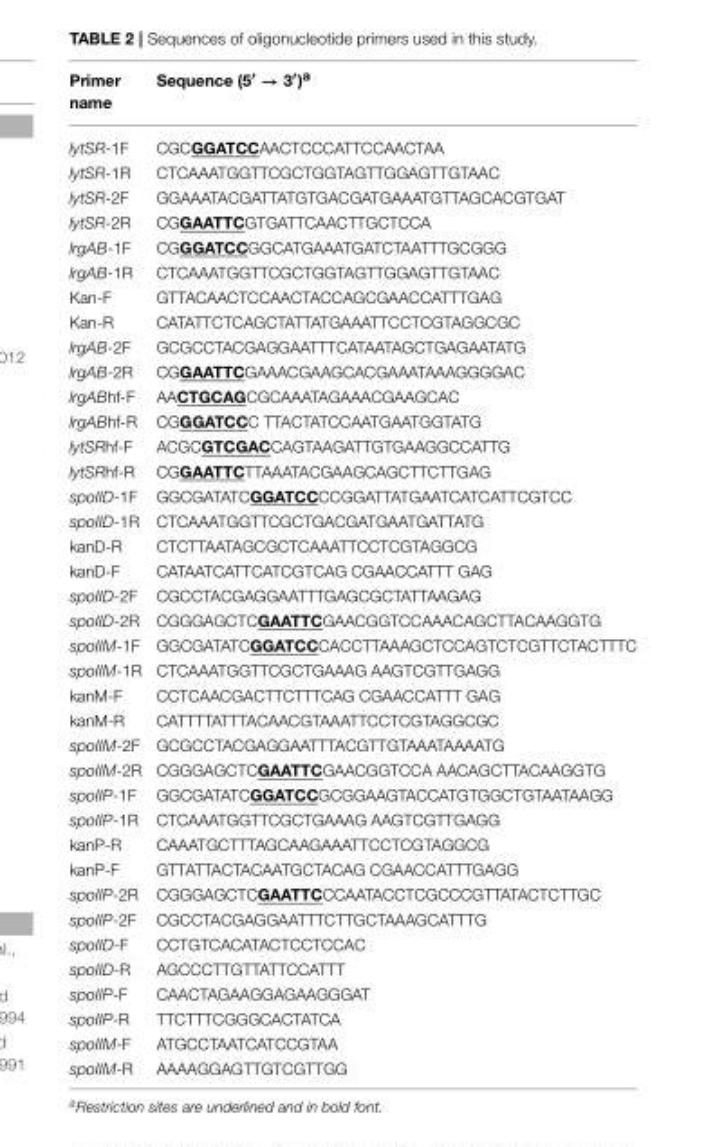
<table><thead><tr><td>Primer name</td><td>Sequence (5′ → 3′)<sup>a</sup></td></tr></thead><tbody><tr><td>lytSR-1F</td><td>CGCGGATCCAACTCCCATTCCAACTAA</td></tr><tr><td>lytSR-1R</td><td>CTCAAATGGTTCGCTGGTAGTTGGAGTTGTAAC</td></tr><tr><td>lytSR-2F</td><td>GGAAATACGATTATGTGACGATGAAATGTTAGCACGTGAT</td></tr><tr><td>lytSR-2R</td><td>CGGAATTCGTGATTCAACTTGCTCCA</td></tr><tr><td>lrgAB-1F</td><td>CGGGATCCGGCATGAAATGATCTAATTTGCGGG</td></tr><tr><td>lrgAB-1R</td><td>CTCAAATGGTTCGCTGGTAGTTGGAGTTGTAAC</td></tr><tr><td>Kan-F</td><td>GTTACAACTCCAACTACCAGCGAACCATTTGAG</td></tr><tr><td>Kan-R</td><td>CATATTCTCAGCTATTATGAAATTCCTCGTAGGCGC</td></tr><tr><td>lrgAB-2F</td><td>GCGCCTACGAGGAATTTCATAATAGCTGAGAATATG</td></tr><tr><td>lrgAB-2R</td><td>CGGAATTCGAAACGAAGCACGAAATAAAGGGGAC</td></tr><tr><td>lrgABhf-F</td><td>AACTGCAGCGCAAATAGAAACGAAGCAC</td></tr><tr><td>lrgABhf-R</td><td>CGGGATCCC TTACTATCCAATGAATGGTATG</td></tr><tr><td>lytSRhf-F</td><td>ACGCGTCGACCAGTAAGATTGTGAAGGCCATTG</td></tr><tr><td>lytSRhf-R</td><td>CGGAATTCTTAAATACGAAGCAGCTTCTTGAG</td></tr><tr><td>spoIID-1F</td><td>GGCGATATCGGATCCCCGGATTATGAATCATCATTCGTCC</td></tr><tr><td>spoIID-1R</td><td>CTCAAATGGTTCGCTGACGATGAATGATTATG</td></tr><tr><td>kanD-R</td><td>CTCTTAATAGCGCTCAAATTCCTCGTAGGCG</td></tr><tr><td>kanD-F</td><td>CATAATCATTCATCGTCAG CGAACCATTT GAG</td></tr><tr><td>spoIID-2F</td><td>CGCCTACGAGGAATTTGAGCGCTATTAAGAG</td></tr><tr><td>spoIID-2R</td><td>CGGGAGCTCGAATTCGAACGGTCCAAACAGCTTACAAGGTG</td></tr><tr><td>spoIIM-1F</td><td>GGCGATATCGGATCCCACCTTAAAGCTCCAGTCTCGTTCTACTTTC</td></tr><tr><td>spoIIM-1R</td><td>CTCAAATGGTTCGCTGAAAG AAGTCGTTGAGG</td></tr><tr><td>kanM-F</td><td>CCTCAACGACTTCTTTCAG CGAACCATTT GAG</td></tr><tr><td>kanM-R</td><td>CATTTTATTTACAACGTAAATTCCTCGTAGGCGC</td></tr><tr><td>spoIIM-2F</td><td>GCGCCTACGAGGAATTTACGTTGTAAATAAAATG</td></tr><tr><td>spoIIM-2R</td><td>CGGGAGCTCGAATTCGAACGGTCCA AACAGCTTACAAGGTG</td></tr><tr><td>spoIIP-1F</td><td>GGCGATATCGGATCCGCGGAAGTACCATGTGGCTGTAATAAGG</td></tr><tr><td>spoIIP-1R</td><td>CTCAAATGGTTCGCTGAAAG AAGTCGTTGAGG</td></tr><tr><td>kanP-R</td><td>CAAATGCTTTAGCAAGAAATTCCTCGTAGGCG</td></tr><tr><td>kanP-F</td><td>GTTATTACTACAATGCTACAG CGAACCATTTGAGG</td></tr><tr><td>spoIIP-2R</td><td>CGGGAGCTCGAATTCCCAATACCTCGCCCGTTATACTCTTGC</td></tr><tr><td>spoIIP-2F</td><td>CGCCTACGAGGAATTTCTTGCTAAAGCATTTG</td></tr><tr><td>spoIID-F</td><td>CCTGTCACATACTCCTCCAC</td></tr><tr><td>spoIID-R</td><td>AGCCCTTGTTATTCCATTT</td></tr><tr><td>spoIIP-F</td><td>CAACTAGAAGGAGAAGGGAT</td></tr><tr><td>spoIIP-R</td><td>TTCTTTCGGGCACTATCA</td></tr><tr><td>spoIIM-F</td><td>ATGCCTAATCATCCGTAA</td></tr><tr><td>spoIIM-R</td><td>AAAAGGAGTTGTCGTTGG</td></tr></tbody></table>